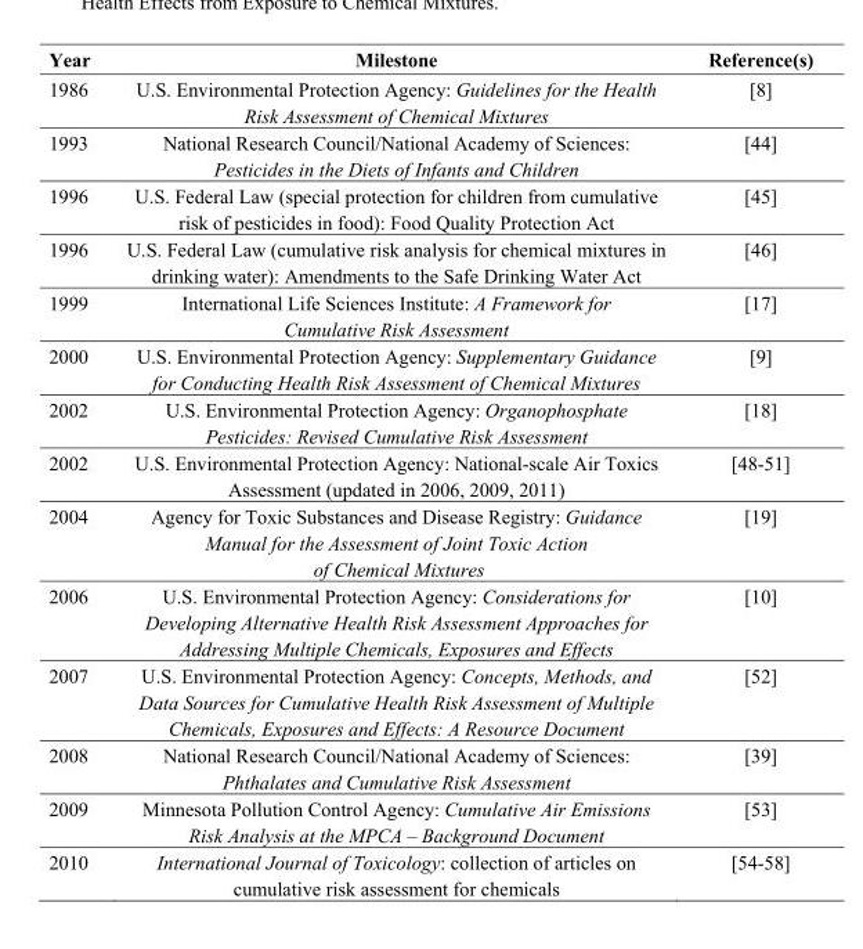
<table><thead><tr><td>Year</td><td>Milestone</td><td>Reference(s)</td></tr></thead><tbody><tr><td>1986</td><td>U.S. Environmental Protection Agency: Guidelines for the Health Risk Assessment of Chemical Mixtures</td><td>[8]</td></tr><tr><td>1993</td><td>National Research Council/National Academy of Sciences: Pesticides in the Diets of Infants and Children</td><td>[44]</td></tr><tr><td>1996</td><td>U.S. Federal Law (special protection for children from cumulative risk of pesticides in food): Food Quality Protection Act</td><td>[45]</td></tr><tr><td>1996</td><td>U.S. Federal Law (cumulative risk analysis for chemical mixtures in drinking water): Amendments to the Safe Drinking Water Act</td><td>[46]</td></tr><tr><td>1999</td><td>International Life Sciences Institute: A Framework for Cumulative Risk Assessment</td><td>[17]</td></tr><tr><td>2000</td><td>U.S. Environmental Protection Agency: Supplementary Guidance for Conducting Health Risk Assessment of Chemical Mixtures</td><td>[9]</td></tr><tr><td>2002</td><td>U.S. Environmental Protection Agency: Organophosphate Pesticides: Revised Cumulative Risk Assessment</td><td>[18]</td></tr><tr><td>2002</td><td>U.S. Environmental Protection Agency: National-scale Air Toxics Assessment (updated in 2006, 2009, 2011)</td><td>[48-51]</td></tr><tr><td>2004</td><td>Agency for Toxic Substances and Disease Registry: Guidance Manual for the Assessment of Joint Toxic Action of Chemical Mixtures</td><td>[19]</td></tr><tr><td>2006</td><td>U.S. Environmental Protection Agency: Considerations for Developing Alternative Health Risk Assessment Approaches for Addressing Multiple Chemicals, Exposures and Effects</td><td>[10]</td></tr><tr><td>2007</td><td>U.S. Environmental Protection Agency: Concepts, Methods, and Data Sources for Cumulative Health Risk Assessment of Multiple Chemicals, Exposures and Effects: A Resource Document</td><td>[52]</td></tr><tr><td>2008</td><td>National Research Council/National Academy of Sciences: Phthalates and Cumulative Risk Assessment</td><td>[39]</td></tr><tr><td>2009</td><td>Minnesota Pollution Control Agency: Cumulative Air Emissions Risk Analysis at the MPCA – Background Document</td><td>[53]</td></tr><tr><td>2010</td><td>International Journal of Toxicology: collection of articles on cumulative risk assessment for chemicals</td><td>[54-58]</td></tr></tbody></table>